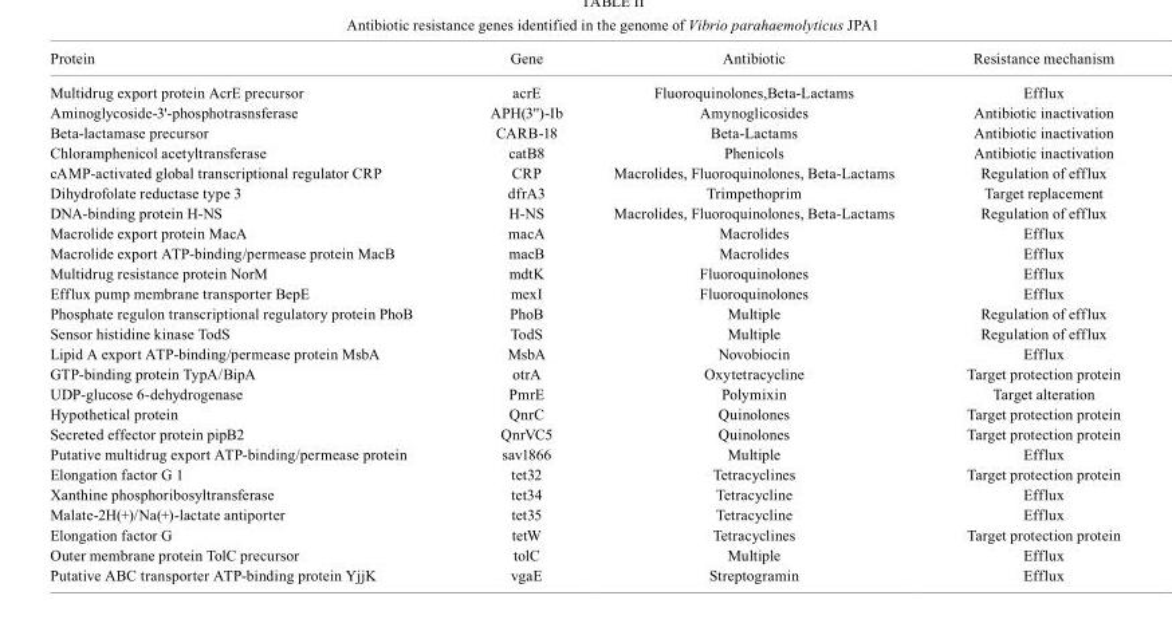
<table><tbody><tr><td>Protein</td><td>Gene</td><td>Antibiotic</td><td>Resistance mechanism</td></tr><tr><td>Multidrug export protein AcrE precursor</td><td>acrE</td><td>Fluoroquinolones,Beta-Lactams</td><td>Efflux</td></tr><tr><td>Aminoglycoside-3&#x27;-phosphotrasnsferase</td><td>APH(3&#x27;&#x27;)-Ib</td><td>Amynoglicosides</td><td>Antibiotic inactivation</td></tr><tr><td>Beta-lactamase precursor</td><td>CARB-18</td><td>Beta-Lactams</td><td>Antibiotic inactivation</td></tr><tr><td>Chloramphenicol acetyltransferase</td><td>catB8</td><td>Phenicols</td><td>Antibiotic inactivation</td></tr><tr><td>cAMP-activated global transcriptional regulator CRP</td><td>CRP</td><td>Macrolides, Fluoroquinolones, Beta-Lactams</td><td>Regulation of efflux</td></tr><tr><td>Dihydrofolate reductase type 3</td><td>dfrA3</td><td>Trimpethoprim</td><td>Target replacement</td></tr><tr><td>DNA-binding protein H-NS</td><td>H-NS</td><td>Macrolides, Fluoroquinolones, Beta-Lactams</td><td>Regulation of efflux</td></tr><tr><td>Macrolide export protein MacA</td><td>macA</td><td>Macrolides</td><td>Efflux</td></tr><tr><td>Macrolide export ATP-binding/permease protein MacB</td><td>macB</td><td>Macrolides</td><td>Efflux</td></tr><tr><td>Multidrug resistance protein NorM</td><td>mdtK</td><td>Fluoroquinolones</td><td>Efflux</td></tr><tr><td>Efflux pump membrane transporter BepE</td><td>mexI</td><td>Fluoroquinolones</td><td>Efflux</td></tr><tr><td>Phosphate regulon transcriptional regulatory protein PhoB</td><td>PhoB</td><td>Multiple</td><td>Regulation of efflux</td></tr><tr><td>Sensor histidine kinase TodS</td><td>TodS</td><td>Multiple</td><td>Regulation of efflux</td></tr><tr><td>Lipid A export ATP-binding/permease protein MsbA</td><td>MsbA</td><td>Novobiocin</td><td>Efflux</td></tr><tr><td>GTP-binding protein TypA/BipA</td><td>otrA</td><td>Oxytetracycline</td><td>Target protection protein</td></tr><tr><td>UDP-glucose 6-dehydrogenase</td><td>PmrE</td><td>Polymixin</td><td>Target alteration</td></tr><tr><td>Hypothetical protein</td><td>QnrC</td><td>Quinolones</td><td>Target protection protein</td></tr><tr><td>Secreted effector protein pipB2</td><td>QnrVC5</td><td>Quinolones</td><td>Target protection protein</td></tr><tr><td>Putative multidrug export ATP-binding/permease protein</td><td>sav1866</td><td>Multiple</td><td>Efflux</td></tr><tr><td>Elongation factor G 1</td><td>tet32</td><td>Tetracyclines</td><td>Target protection protein</td></tr><tr><td>Xanthine phosphoribosyltransferase</td><td>tet34</td><td>Tetracycline</td><td>Efflux</td></tr><tr><td>Malate-2H(+)/Na(+)-lactate antiporter</td><td>tet35</td><td>Tetracycline</td><td>Efflux</td></tr><tr><td>Elongation factor G</td><td>tetW</td><td>Tetracyclines</td><td>Target protection protein</td></tr><tr><td>Outer membrane protein TolC precursor</td><td>tolC</td><td>Multiple</td><td>Efflux</td></tr><tr><td>Putative ABC transporter ATP-binding protein YjjK</td><td>vgaE</td><td>Streptogramin</td><td>Efflux</td></tr></tbody></table>